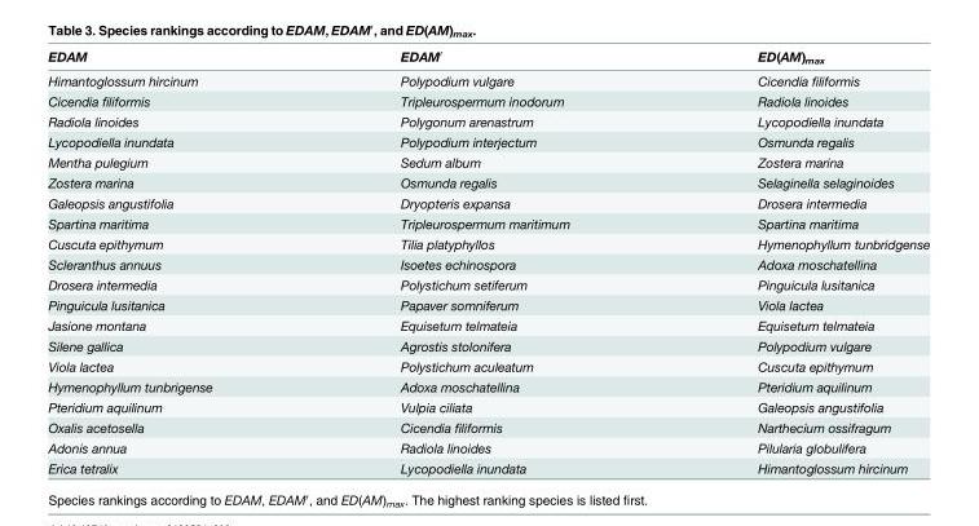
<table><thead><tr><td>EDAM</td><td>EDAM′</td><td>ED(AM)<sub>max</sub></td></tr></thead><tbody><tr><td>Himantoglossum hircinum</td><td>Polypodium vulgare</td><td>Cicendia filiformis</td></tr><tr><td>Cicendia filiformis</td><td>Tripleurospermum inodorum</td><td>Radiola linoides</td></tr><tr><td>Radiola linoides</td><td>Polygonum arenastrum</td><td>Lycopodiella inundata</td></tr><tr><td>Lycopodiella inundata</td><td>Polypodium interjectum</td><td>Osmunda regalis</td></tr><tr><td>Mentha pulegium</td><td>Sedum album</td><td>Zostera marina</td></tr><tr><td>Zostera marina</td><td>Osmunda regalis</td><td>Selaginella selaginoides</td></tr><tr><td>Galeopsis angustifolia</td><td>Dryopteris expansa</td><td>Drosera intermedia</td></tr><tr><td>Spartina maritima</td><td>Tripleurospermum maritimum</td><td>Spartina maritima</td></tr><tr><td>Cuscuta epithymum</td><td>Tilia platyphyllos</td><td>Hymenophyllum tunbridgense</td></tr><tr><td>Scleranthus annuus</td><td>Isoetes echinospora</td><td>Adoxa moschatellina</td></tr><tr><td>Drosera intermedia</td><td>Polystichum setiferum</td><td>Pinguicula lusitanica</td></tr><tr><td>Pinguicula lusitanica</td><td>Papaver somniferum</td><td>Viola lactea</td></tr><tr><td>Jasione montana</td><td>Equisetum telmateia</td><td>Equisetum telmateia</td></tr><tr><td>Silene gallica</td><td>Agrostis stolonifera</td><td>Polypodium vulgare</td></tr><tr><td>Viola lactea</td><td>Polystichum aculeatum</td><td>Cuscuta epithymum</td></tr><tr><td>Hymenophyllum tunbrigense</td><td>Adoxa moschatellina</td><td>Pteridium aquilinum</td></tr><tr><td>Pteridium aquilinum</td><td>Vulpia ciliata</td><td>Galeopsis angustifolia</td></tr><tr><td>Oxalis acetosella</td><td>Cicendia filiformis</td><td>Narthecium ossifragum</td></tr><tr><td>Adonis annua</td><td>Radiola linoides</td><td>Pilularia globulifera</td></tr><tr><td>Erica tetralix</td><td>Lycopodiella inundata</td><td>Himantoglossum hircinum</td></tr></tbody></table>